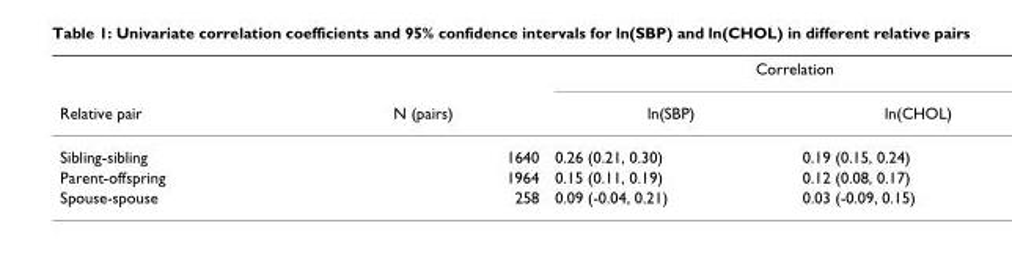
<table><thead><tr><td rowspan="2">Relative pair</td><td rowspan="2">N (pairs)</td><td colspan="2">Correlation</td></tr><tr><td>ln(SBP)</td><td>ln(CHOL)</td></tr></thead><tbody><tr><td>Sibling-sibling</td><td>1640</td><td>0.26 (0.21, 0.30)</td><td>0.19 (0.15, 0.24)</td></tr><tr><td>Parent-offspring</td><td>1964</td><td>0.15 (0.11, 0.19)</td><td>0.12 (0.08, 0.17)</td></tr><tr><td>Spouse-spouse</td><td>258</td><td>0.09 (-0.04, 0.21)</td><td>0.03 (-0.09, 0.15)</td></tr></tbody></table>